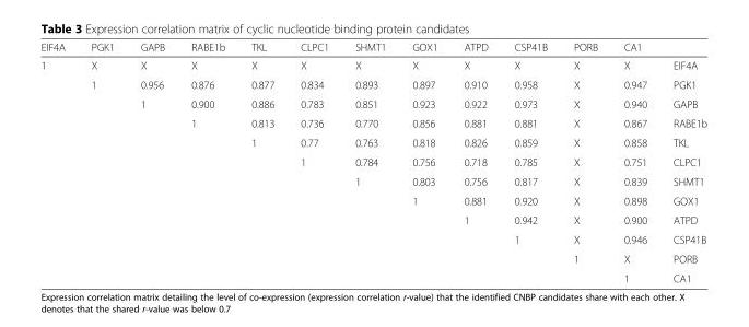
<table><thead><tr><td>EIF4A</td><td>PGK1</td><td>GAPB</td><td>RABE1b</td><td>TKL</td><td>CLPC1</td><td>SHMT1</td><td>GOX1</td><td>ATPD</td><td>CSP41B</td><td>PORB</td><td>CA1</td><td></td></tr></thead><tbody><tr><td rowspan="12">1</td><td>X</td><td>X</td><td>X</td><td>X</td><td>X</td><td>X</td><td>X</td><td>X</td><td>X</td><td>X</td><td>X</td><td>EIF4A</td></tr><tr><td>1</td><td>0.956</td><td>0.876</td><td>0.877</td><td>0.834</td><td>0.893</td><td>0.897</td><td>0.910</td><td>0.958</td><td>X</td><td>0.947</td><td>PGK1</td></tr><tr><td></td><td>1</td><td>0.900</td><td>0.886</td><td>0.783</td><td>0.851</td><td>0.923</td><td>0.922</td><td>0.973</td><td>X</td><td>0.940</td><td>GAPB</td></tr><tr><td></td><td></td><td>1</td><td>0.813</td><td>0.736</td><td>0.770</td><td>0.856</td><td>0.881</td><td>0.881</td><td>X</td><td>0.867</td><td>RABE1b</td></tr><tr><td></td><td></td><td></td><td>1</td><td>0.77</td><td>0.763</td><td>0.818</td><td>0.826</td><td>0.859</td><td>X</td><td>0.858</td><td>TKL</td></tr><tr><td></td><td></td><td></td><td></td><td>1</td><td>0.784</td><td>0.756</td><td>0.718</td><td>0.785</td><td>X</td><td>0.751</td><td>CLPC1</td></tr><tr><td></td><td></td><td></td><td></td><td></td><td>1</td><td>0.803</td><td>0.756</td><td>0.817</td><td>X</td><td>0.839</td><td>SHMT1</td></tr><tr><td></td><td></td><td></td><td></td><td></td><td></td><td>1</td><td>0.881</td><td>0.920</td><td>X</td><td>0.898</td><td>GOX1</td></tr><tr><td></td><td></td><td></td><td></td><td></td><td></td><td></td><td>1</td><td>0.942</td><td>X</td><td>0.900</td><td>ATPD</td></tr><tr><td></td><td></td><td></td><td></td><td></td><td></td><td></td><td></td><td>1</td><td>X</td><td>0.946</td><td>CSP41B</td></tr><tr><td></td><td></td><td></td><td></td><td></td><td></td><td></td><td></td><td></td><td>1</td><td>X</td><td>PORB</td></tr><tr><td></td><td></td><td></td><td></td><td></td><td></td><td></td><td></td><td></td><td></td><td>1</td><td>CA1</td></tr></tbody></table>